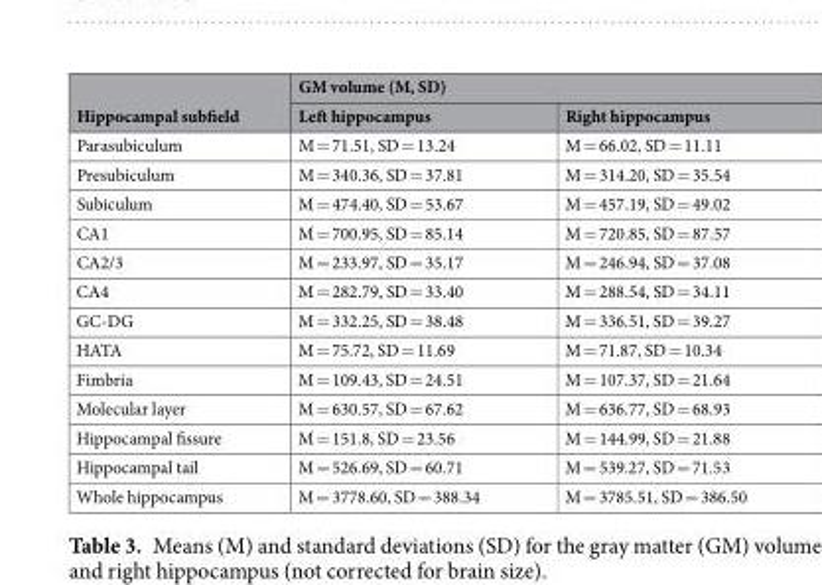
<table><thead><tr><td rowspan="2">Hippocampal subfield</td><td colspan="2">GM volume (M, SD)</td></tr><tr><td>Left hippocampus</td><td>Right hippocampus</td></tr></thead><tbody><tr><td>Parasubiculum</td><td>M = 71.51, SD = 13.24</td><td>M = 66.02, SD = 11.11</td></tr><tr><td>Presubiculum</td><td>M = 340.36, SD = 37.81</td><td>M = 314.20, SD = 35.54</td></tr><tr><td>Subiculum</td><td>M = 474.40, SD = 53.67</td><td>M = 457.19, SD = 49.02</td></tr><tr><td>CA1</td><td>M = 700.95, SD = 85.14</td><td>M = 720.85, SD = 87.57</td></tr><tr><td>CA2/3</td><td>M = 233.97, SD = 35.17</td><td>M = 246.94, SD = 37.08</td></tr><tr><td>CA4</td><td>M = 282.79, SD = 33.40</td><td>M = 288.54, SD = 34.11</td></tr><tr><td>GC-DG</td><td>M = 332.25, SD = 38.48</td><td>M = 336.51, SD = 39.27</td></tr><tr><td>HATA</td><td>M = 75.72, SD = 11.69</td><td>M = 71.87, SD = 10.34</td></tr><tr><td>Fimbria</td><td>M = 109.43, SD = 24.51</td><td>M = 107.37, SD = 21.64</td></tr><tr><td>Molecular layer</td><td>M = 630.57, SD = 67.62</td><td>M = 636.77, SD = 68.93</td></tr><tr><td>Hippocampal fissure</td><td>M = 151.8, SD = 23.56</td><td>M = 144.99, SD = 21.88</td></tr><tr><td>Hippocampal tail</td><td>M = 526.69, SD = 60.71</td><td>M = 539.27, SD = 71.53</td></tr><tr><td>Whole hippocampus</td><td>M = 3778.60, SD = 388.34</td><td>M = 3785.51, SD = 386.50</td></tr></tbody></table>